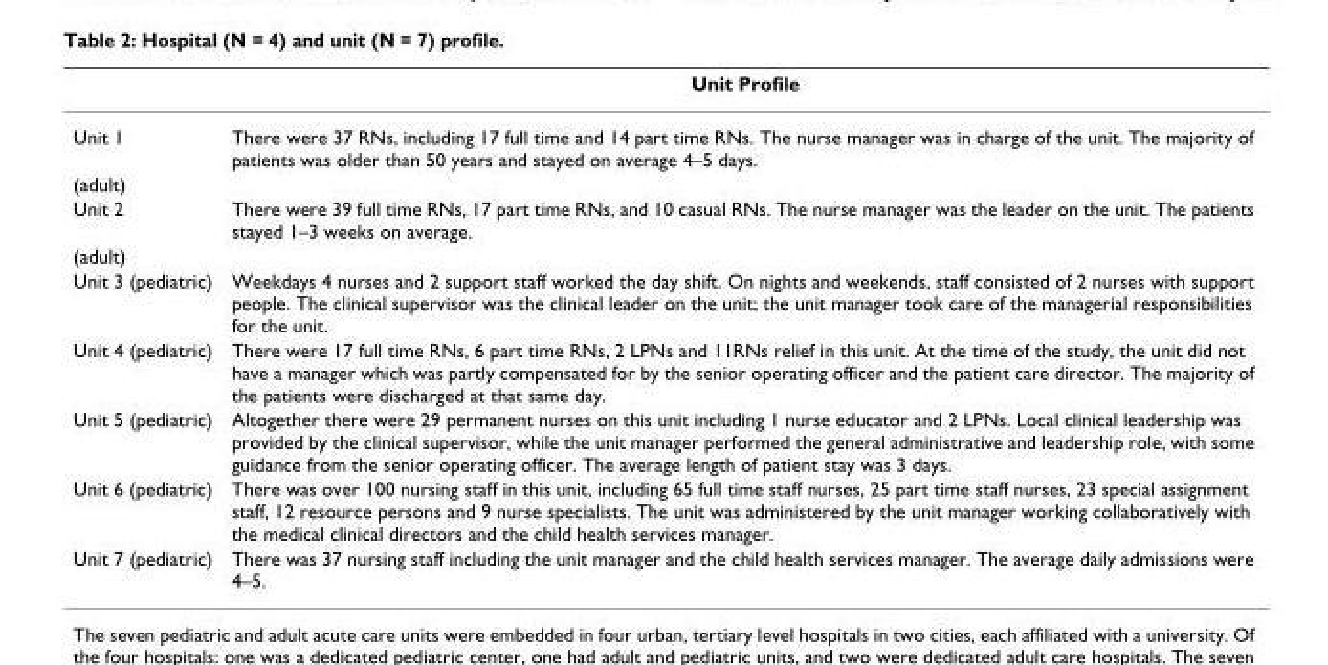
<table><thead><tr><td></td><td>Unit Profile</td></tr></thead><tbody><tr><td>Unit 1</td><td>There were 37 RNs, including 17 full time and 14 part time RNs. The nurse manager was in charge of the unit. The majority of patients was older than 50 years and stayed on average 4–5 days.</td></tr><tr><td colspan="2">(adult)</td></tr><tr><td>Unit 2</td><td>There were 39 full time RNs, 17 part time RNs, and 10 casual RNs. The nurse manager was the leader on the unit. The patients stayed 1–3 weeks on average.</td></tr><tr><td colspan="2">(adult)</td></tr><tr><td>Unit 3 (pediatric)</td><td>Weekdays 4 nurses and 2 support staff worked the day shift. On nights and weekends, staff consisted of 2 nurses with support people. The clinical supervisor was the clinical leader on the unit; the unit manager took care of the managerial responsibilities for the unit.</td></tr><tr><td>Unit 4 (pediatric)</td><td>There were 17 full time RNs, 6 part time RNs, 2 LPNs and 11RNs relief in this unit. At the time of the study, the unit did not have a manager which was partly compensated for by the senior operating officer and the patient care director. The majority of the patients were discharged at that same day.</td></tr><tr><td>Unit 5 (pediatric)</td><td>Altogether there were 29 permanent nurses on this unit including 1 nurse educator and 2 LPNs. Local clinical leadership was provided by the clinical supervisor, while the unit manager performed the general administrative and leadership role, with some guidance from the senior operating officer. The average length of patient stay was 3 days.</td></tr><tr><td>Unit 6 (pediatric)</td><td>There was over 100 nursing staff in this unit, including 65 full time staff nurses, 25 part time staff nurses, 23 special assignment staff, 12 resource persons and 9 nurse specialists. The unit was administered by the unit manager working collaboratively with the medical clinical directors and the child health services manager.</td></tr><tr><td>Unit 7 (pediatric)</td><td>There was 37 nursing staff including the unit manager and the child health services manager. The average daily admissions were 4–5.</td></tr></tbody></table>